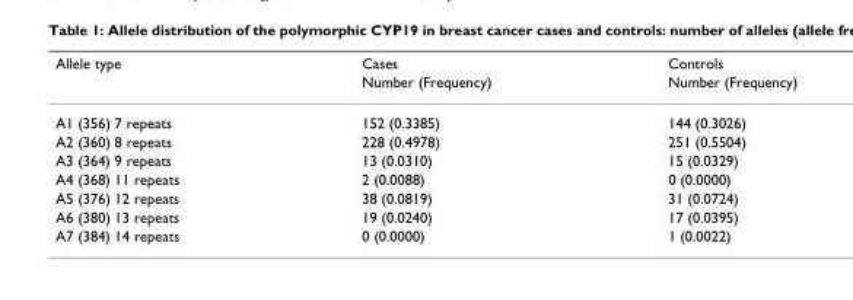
<table><thead><tr><td rowspan="2">Allele type</td><td rowspan="2">Cases Number (Frequency)</td><td rowspan="2">Controls Number (Frequency)</td></tr><tr></tr></thead><tbody><tr><td>A1 (356) 7 repeats</td><td>152 (0.3385)</td><td>144 (0.3026)</td></tr><tr><td>A2 (360) 8 repeats</td><td>228 (0.4978)</td><td>251 (0.5504)</td></tr><tr><td>A3 (364) 9 repeats</td><td>13 (0.0310)</td><td>15 (0.0329)</td></tr><tr><td>A4 (368) 11 repeats</td><td>2 (0.0088)</td><td>0 (0.0000)</td></tr><tr><td>A5 (376) 12 repeats</td><td>38 (0.0819)</td><td>31 (0.0724)</td></tr><tr><td>A6 (380) 13 repeats</td><td>19 (0.0240)</td><td>17 (0.0395)</td></tr><tr><td>A7 (384) 14 repeats</td><td>0 (0.0000)</td><td>1 (0.0022)</td></tr></tbody></table>